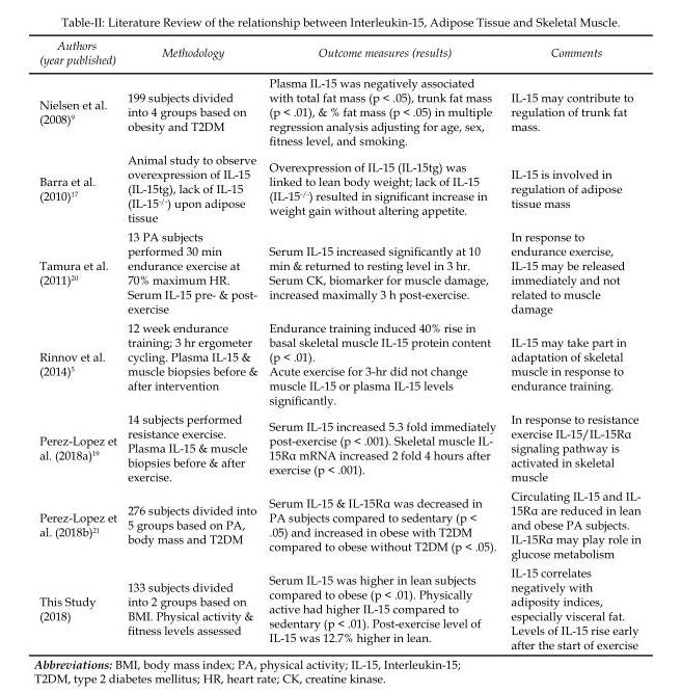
<table><thead><tr><td>Authors (year published)</td><td>Methodology</td><td>Outcome measures (results)</td><td>Comments</td></tr></thead><tbody><tr><td>Nielsen et al. (2008)<sup>9</sup></td><td>199 subjects divided into 4 groups based on obesity and T2DM</td><td>Plasma IL-15 was negatively associated with total fat mass (p &lt; .05), trunk fat mass (p &lt; .01), &amp; % fat mass (p &lt; .05) in multiple regression analysis adjusting for age, sex, fitness level, and smoking.</td><td>IL-15 may contribute to regulation of trunk fat mass.</td></tr><tr><td>Barra et al. (2010)<sup>17</sup></td><td>Animal study to observe overexpression of IL-15 (IL-15tg), lack of IL-15 (IL-15<sup>-/-</sup>) upon adipose tissue</td><td>Overexpression of IL-15 (IL-15tg) was linked to lean body weight; lack of IL-15 (IL-15<sup>-/-</sup>) resulted in significant increase in weight gain without altering appetite.</td><td>IL-15 is involved in regulation of adipose tissue mass</td></tr><tr><td>Tamura et al. (2011)<sup>20</sup></td><td>13 PA subjects performed 30 min endurance exercise at 70% maximum HR. Serum IL-15 pre- &amp; post- exercise</td><td>Serum IL-15 increased significantly at 10 min &amp; returned to resting level in 3 hr. Serum CK, biomarker for muscle damage, increased maximally 3 h post-exercise.</td><td>In response to endurance exercise, IL-15 may be released immediately and not related to muscle damage</td></tr><tr><td>Rinnov et al. (2014)<sup>5</sup></td><td>12 week endurance training; 3 hr ergometer cycling. Plasma IL-15 &amp; muscle biopsies before &amp; after intervention</td><td>Endurance training induced 40% rise in basal skeletal muscle IL-15 protein content (p &lt; .01). Acute exercise for 3-hr did not change muscle IL-15 or plasma IL-15 levels significantly.</td><td>IL-15 may take part in adaptation of skeletal muscle in response to endurance training.</td></tr><tr><td>Perez-Lopez et al. (2018a)<sup>19</sup></td><td>14 subjects performed resistance exercise. Plasma IL-15 &amp; muscle biopsies before &amp; after exercise.</td><td>Serum IL-15 increased 5.3 fold immediately post-exercise (p &lt; .001). Skeletal muscle IL- 15Rα mRNA increased 2 fold 4 hours after exercise (p &lt; .001).</td><td>In response to resistance exercise IL-15/IL-15Rα signaling pathway is activated in skeletal muscle</td></tr><tr><td>Perez-Lopez et al. (2018b)<sup>21</sup></td><td>276 subjects divided into 5 groups based on PA, body mass and T2DM</td><td>Serum IL-15 &amp; IL-15Rα was decreased in PA subjects compared to sedentary (p &lt; .05) and increased in obese with T2DM compared to obese without T2DM (p &lt; .05).</td><td>Circulating IL-15 and IL- 15Rα are reduced in lean and obese PA subjects. IL-15Rα may play role in glucose metabolism</td></tr><tr><td>This Study (2018)</td><td>133 subjects divided into 2 groups based on BMI. Physical activity &amp; fitness levels assessed</td><td>Serum IL-15 was higher in lean subjects compared to obese (p &lt; .01). Physically active had higher IL-15 compared to sedentary (p &lt; .01). Post-exercise level of IL-15 was 12.7% higher in lean.</td><td>IL-15 correlates negatively with adiposity indices, especially visceral fat. Levels of IL-15 rise early after the start of exercise</td></tr></tbody></table>